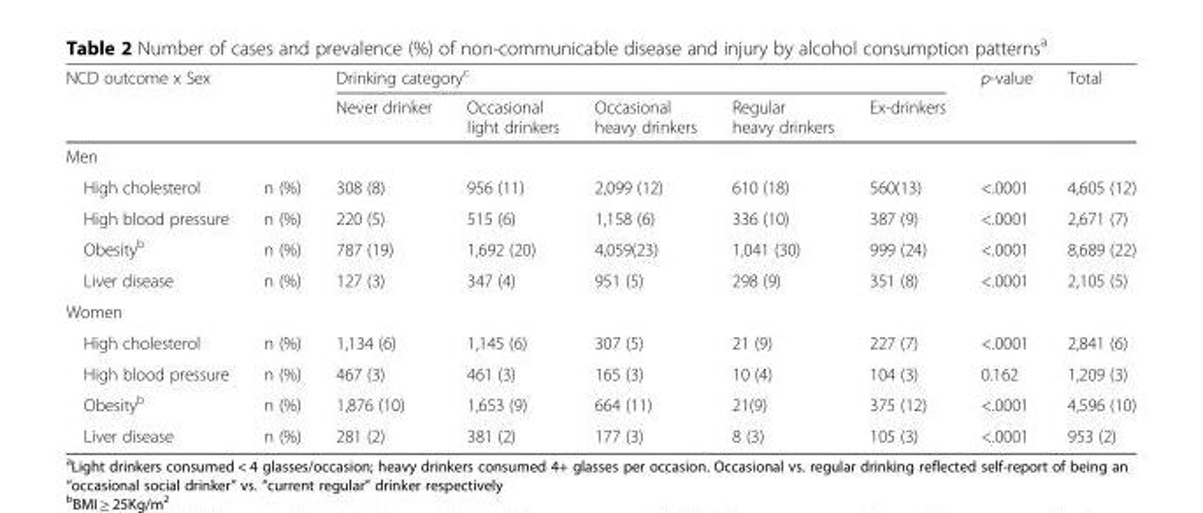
<table><thead><tr><td rowspan="2">NCD outcome x Sex</td><td rowspan="2"></td><td colspan="5">Drinking category<sup>c</sup></td><td rowspan="2">p-value</td><td rowspan="2">Total</td></tr><tr><td>Never drinker</td><td>Occasional light drinkers</td><td>Occasional heavy drinkers</td><td>Regular heavy drinkers</td><td>Ex-drinkers</td></tr></thead><tbody><tr><td colspan="9">Men</td></tr><tr><td>High cholesterol</td><td>n (%)</td><td>308 (8)</td><td>956 (11)</td><td>2,099 (12)</td><td>610 (18)</td><td>560(13)</td><td>&lt;.0001</td><td>4,605 (12)</td></tr><tr><td>High blood pressure</td><td>n (%)</td><td>220 (5)</td><td>515 (6)</td><td>1,158 (6)</td><td>336 (10)</td><td>387 (9)</td><td>&lt;.0001</td><td>2,671 (7)</td></tr><tr><td>Obesity<sup>b</sup></td><td>n (%)</td><td>787 (19)</td><td>1,692 (20)</td><td>4,059(23)</td><td>1,041 (30)</td><td>999 (24)</td><td>&lt;.0001</td><td>8,689 (22)</td></tr><tr><td>Liver disease</td><td>n (%)</td><td>127 (3)</td><td>347 (4)</td><td>951 (5)</td><td>298 (9)</td><td>351 (8)</td><td>&lt;.0001</td><td>2,105 (5)</td></tr><tr><td colspan="9">Women</td></tr><tr><td>High cholesterol</td><td>n (%)</td><td>1,134 (6)</td><td>1,145 (6)</td><td>307 (5)</td><td>21 (9)</td><td>227 (7)</td><td>&lt;.0001</td><td>2,841 (6)</td></tr><tr><td>High blood pressure</td><td>n (%)</td><td>467 (3)</td><td>461 (3)</td><td>165 (3)</td><td>10 (4)</td><td>104 (3)</td><td>0.162</td><td>1,209 (3)</td></tr><tr><td>Obesity<sup>b</sup></td><td>n (%)</td><td>1,876 (10)</td><td>1,653 (9)</td><td>664 (11)</td><td>21(9)</td><td>375 (12)</td><td>&lt;.0001</td><td>4,596 (10)</td></tr><tr><td>Liver disease</td><td>n (%)</td><td>281 (2)</td><td>381 (2)</td><td>177 (3)</td><td>8 (3)</td><td>105 (3)</td><td>&lt;.0001</td><td>953 (2)</td></tr></tbody></table>